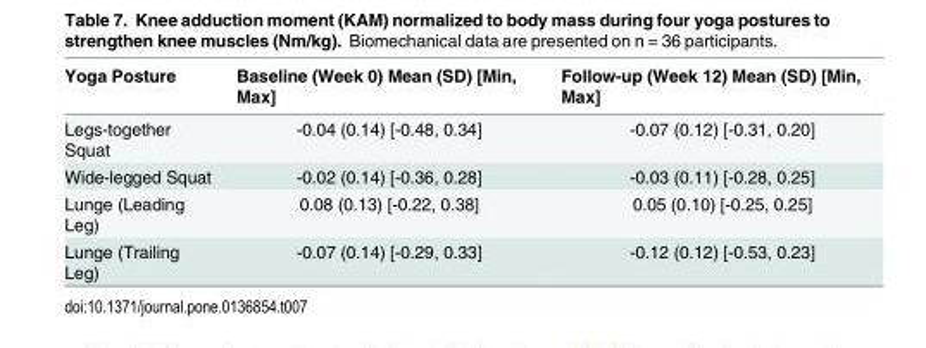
<table><thead><tr><td>Yoga Posture</td><td>Baseline (Week 0) Mean (SD) [Min, Max]</td><td>Follow-up (Week 12) Mean (SD) [Min, Max]</td></tr></thead><tbody><tr><td>Legs-together Squat</td><td>-0.04 (0.14) [-0.48, 0.34]</td><td>-0.07 (0.12) [-0.31, 0.20]</td></tr><tr><td>Wide-legged Squat</td><td>-0.02 (0.14) [-0.36, 0.28]</td><td>-0.03 (0.11) [-0.28, 0.25]</td></tr><tr><td>Lunge (Leading Leg)</td><td>0.08 (0.13) [-0.22, 0.38]</td><td>0.05 (0.10) [-0.25, 0.25]</td></tr><tr><td>Lunge (Trailing Leg)</td><td>-0.07 (0.14) [-0.29, 0.33]</td><td>-0.12 (0.12) [-0.53, 0.23]</td></tr></tbody></table>